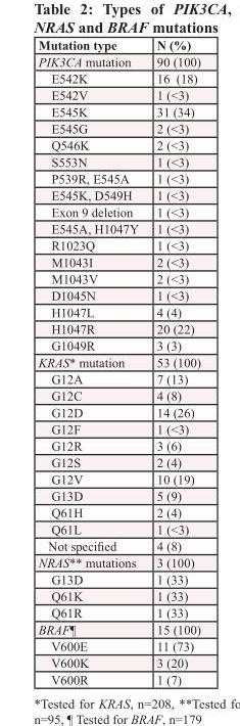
<table><thead><tr><td>Mutation type</td><td>N (%)</td></tr></thead><tbody><tr><td>PIK3CA mutation</td><td>90 (100)</td></tr><tr><td>E542K</td><td>16 (18)</td></tr><tr><td>E542V</td><td>1 (&lt;3)</td></tr><tr><td>E545K</td><td>31 (34)</td></tr><tr><td>E545G</td><td>2 (&lt;3)</td></tr><tr><td>Q546K</td><td>2 (&lt;3)</td></tr><tr><td>S553N</td><td>1 (&lt;3)</td></tr><tr><td>P539R, E545A</td><td>1 (&lt;3)</td></tr><tr><td>E545K, D549H</td><td>1 (&lt;3)</td></tr><tr><td>Exon 9 deletion</td><td>1 (&lt;3)</td></tr><tr><td>E545A, H1047Y</td><td>1 (&lt;3)</td></tr><tr><td>R1023Q</td><td>1 (&lt;3)</td></tr><tr><td>M1043I</td><td>2 (&lt;3)</td></tr><tr><td>M1043V</td><td>2 (&lt;3)</td></tr><tr><td>D1045N</td><td>1 (&lt;3)</td></tr><tr><td>H1047L</td><td>4 (4)</td></tr><tr><td>H1047R</td><td>20 (22)</td></tr><tr><td>G1049R</td><td>3 (3)</td></tr><tr><td>KRAS* mutation</td><td>53 (100)</td></tr><tr><td>G12A</td><td>7 (13)</td></tr><tr><td>G12C</td><td>4 (8)</td></tr><tr><td>G12D</td><td>14 (26)</td></tr><tr><td>G12F</td><td>1 (&lt;3)</td></tr><tr><td>G12R</td><td>3 (6)</td></tr><tr><td>G12S</td><td>2 (4)</td></tr><tr><td>G12V</td><td>10 (19)</td></tr><tr><td>G13D</td><td>5 (9)</td></tr><tr><td>Q61H</td><td>2 (4)</td></tr><tr><td>Q61L</td><td>1 (&lt;3)</td></tr><tr><td>Not specified</td><td>4 (8)</td></tr><tr><td>NRAS** mutations</td><td>3 (100)</td></tr><tr><td>G13D</td><td>1 (33)</td></tr><tr><td>Q61K</td><td>1 (33)</td></tr><tr><td>Q61R</td><td>1 (33)</td></tr><tr><td>BRAF¶</td><td>15 (100)</td></tr><tr><td>V600E</td><td>11 (73)</td></tr><tr><td>V600K</td><td>3 (20)</td></tr><tr><td>V600R</td><td>1 (7)</td></tr></tbody></table>